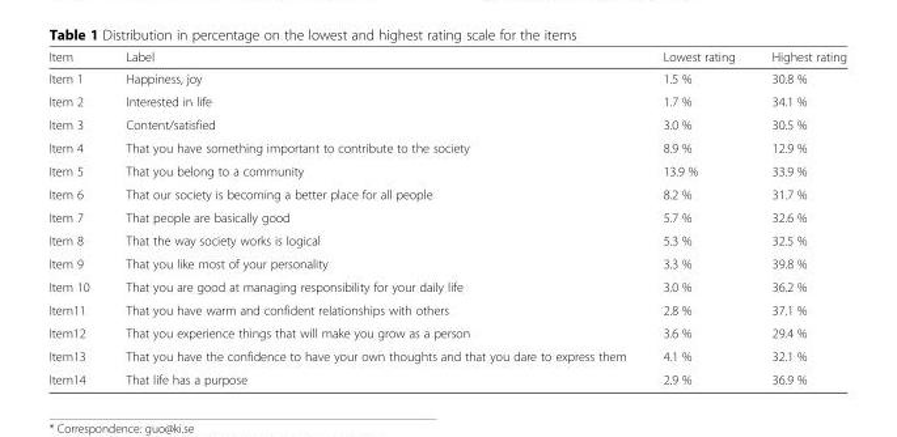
<table><thead><tr><td>Item</td><td>Label</td><td>Lowest rating</td><td>Highest rating</td></tr></thead><tbody><tr><td>Item 1</td><td>Happiness, joy</td><td>1.5 %</td><td>30.8 %</td></tr><tr><td>Item 2</td><td>Interested in life</td><td>1.7 %</td><td>34.1 %</td></tr><tr><td>Item 3</td><td>Content/satisfied</td><td>3.0 %</td><td>30.5 %</td></tr><tr><td>Item 4</td><td>That you have something important to contribute to the society</td><td>8.9 %</td><td>12.9 %</td></tr><tr><td>Item 5</td><td>That you belong to a community</td><td>13.9 %</td><td>33.9 %</td></tr><tr><td>Item 6</td><td>That our society is becoming a better place for all people</td><td>8.2 %</td><td>31.7 %</td></tr><tr><td>Item 7</td><td>That people are basically good</td><td>5.7 %</td><td>32.6 %</td></tr><tr><td>Item 8</td><td>That the way society works is logical</td><td>5.3 %</td><td>32.5 %</td></tr><tr><td>Item 9</td><td>That you like most of your personality</td><td>3.3 %</td><td>39.8 %</td></tr><tr><td>Item 10</td><td>That you are good at managing responsibility for your daily life</td><td>3.0 %</td><td>36.2 %</td></tr><tr><td>Item11</td><td>That you have warm and confident relationships with others</td><td>2.8 %</td><td>37.1 %</td></tr><tr><td>Item12</td><td>That you experience things that will make you grow as a person</td><td>3.6 %</td><td>29.4 %</td></tr><tr><td>Item13</td><td>That you have the confidence to have your own thoughts and that you dare to express them</td><td>4.1 %</td><td>32.1 %</td></tr><tr><td>Item14</td><td>That life has a purpose</td><td>2.9 %</td><td>36.9 %</td></tr></tbody></table>